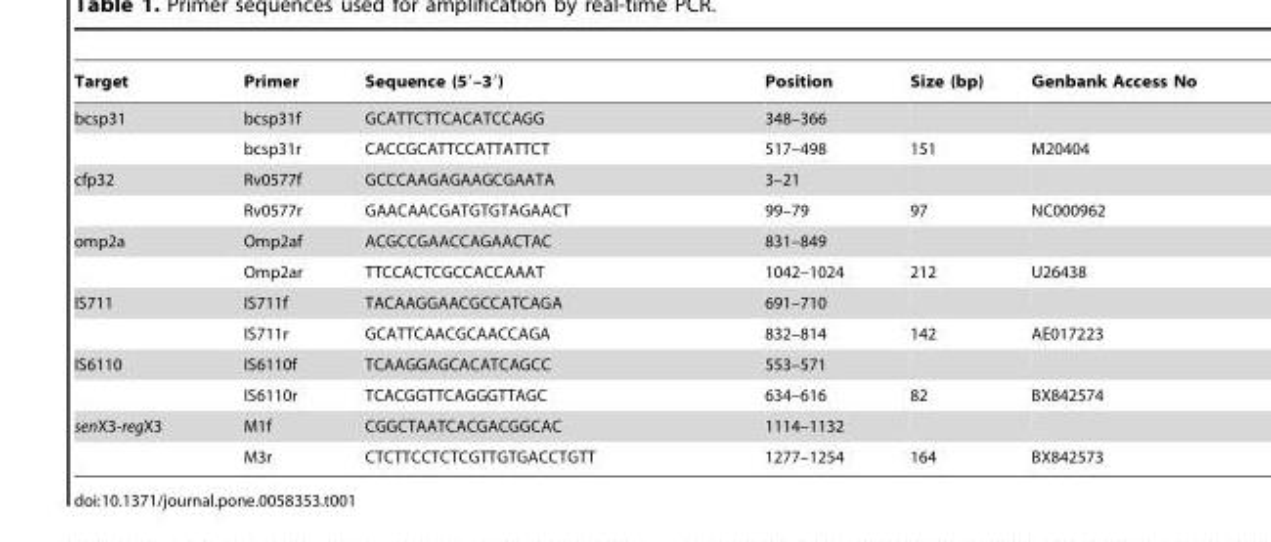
<table><thead><tr><td>Target</td><td>Primer</td><td>Sequence (5′–3′)</td><td>Position</td><td>Size (bp)</td><td>Genbank Access No</td></tr></thead><tbody><tr><td rowspan="2">bcsp31</td><td>bcsp31f</td><td>GCATTCTTCACATCCAGG</td><td>348–366</td><td></td><td></td></tr><tr><td>bcsp31r</td><td>CACCGCATTCCATTATTCT</td><td>517–498</td><td>151</td><td>M20404</td></tr><tr><td rowspan="2">cfp32</td><td>Rv0577f</td><td>GCCCAAGAGAAGCGAATA</td><td>3–21</td><td></td><td></td></tr><tr><td>Rv0577r</td><td>GAACAACGATGTGTAGAACT</td><td>99–79</td><td>97</td><td>NC000962</td></tr><tr><td rowspan="2">omp2a</td><td>Omp2af</td><td>ACGCCGAACCAGAACTAC</td><td>831–849</td><td></td><td></td></tr><tr><td>Omp2ar</td><td>TTCCACTCGCCACCAAAT</td><td>1042–1024</td><td>212</td><td>U26438</td></tr><tr><td rowspan="2">IS711</td><td>IS711f</td><td>TACAAGGAACGCCATCAGA</td><td>691–710</td><td></td><td></td></tr><tr><td>IS711r</td><td>GCATTCAACGCAACCAGA</td><td>832–814</td><td>142</td><td>AE017223</td></tr><tr><td rowspan="2">IS6110</td><td>IS6110f</td><td>TCAAGGAGCACATCAGCC</td><td>553–571</td><td></td><td></td></tr><tr><td>IS6110r</td><td>TCACGGTTCAGGGTTAGC</td><td>634–616</td><td>82</td><td>BX842574</td></tr><tr><td rowspan="2">senX3-regX3</td><td>M1f</td><td>CGGCTAATCACGACGGCAC</td><td>1114–1132</td><td></td><td></td></tr><tr><td>M3r</td><td>CTCTTCCTCTCGTTGTGACCTGTT</td><td>1277–1254</td><td>164</td><td>BX842573</td></tr></tbody></table>